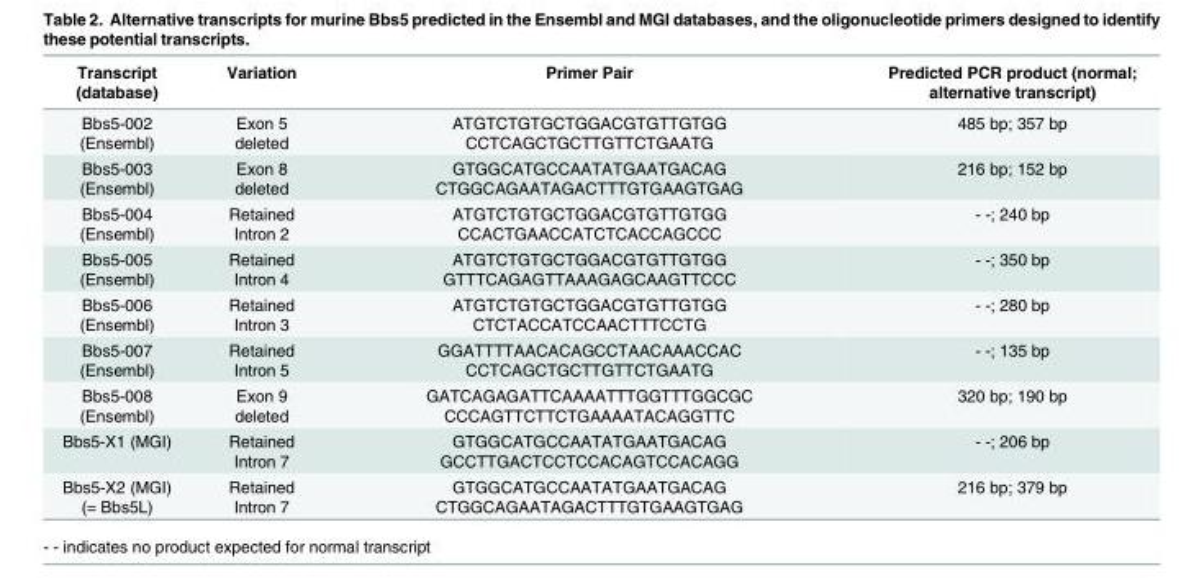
<table><thead><tr><td>Transcript (database)</td><td>Variation</td><td>Primer Pair</td><td>Predicted PCR product (normal; alternative transcript)</td></tr></thead><tbody><tr><td>Bbs5-002 (Ensembl)</td><td>Exon 5 deleted</td><td>ATGTCTGTGCTGGACGTGTTGTGG CCTCAGCTGCTTGTTCTGAATG</td><td>485 bp; 357 bp</td></tr><tr><td>Bbs5-003 (Ensembl)</td><td>Exon 8 deleted</td><td>GTGGCATGCCAATATGAATGACAG CTGGCAGAATAGACTTTGTGAAGTGAG</td><td>216 bp; 152 bp</td></tr><tr><td>Bbs5-004 (Ensembl)</td><td>Retained Intron 2</td><td>ATGTCTGTGCTGGACGTGTTGTGG CCACTGAACCATCTCACCAGCCC</td><td>- -; 240 bp</td></tr><tr><td>Bbs5-005 (Ensembl)</td><td>Retained Intron 4</td><td>ATGTCTGTGCTGGACGTGTTGTGG GTTTCAGAGTTAAAGAGCAAGTTCCC</td><td>- -; 350 bp</td></tr><tr><td>Bbs5-006 (Ensembl)</td><td>Retained Intron 3</td><td>ATGTCTGTGCTGGACGTGTTGTGG CTCTACCATCCAACTTTCCTG</td><td>- -; 280 bp</td></tr><tr><td>Bbs5-007 (Ensembl)</td><td>Retained Intron 5</td><td>GGATTTTAACACAGCCTAACAAACCAC CCTCAGCTGCTTGTTCTGAATG</td><td>- -; 135 bp</td></tr><tr><td>Bbs5-008 (Ensembl)</td><td>Exon 9 deleted</td><td>GATCAGAGATTCAAAATTTGGTTTGGCGC CCCAGTTCTTCTGAAAATACAGGTTC</td><td>320 bp; 190 bp</td></tr><tr><td>Bbs5-X1 (MGI)</td><td>Retained Intron 7</td><td>GTGGCATGCCAATATGAATGACAG GCCTTGACTCCTCCACAGTCCACAGG</td><td>- -; 206 bp</td></tr><tr><td>Bbs5-X2 (MGI) (= Bbs5L)</td><td>Retained Intron 7</td><td>GTGGCATGCCAATATGAATGACAG CTGGCAGAATAGACTTTGTGAAGTGAG</td><td>216 bp; 379 bp</td></tr></tbody></table>